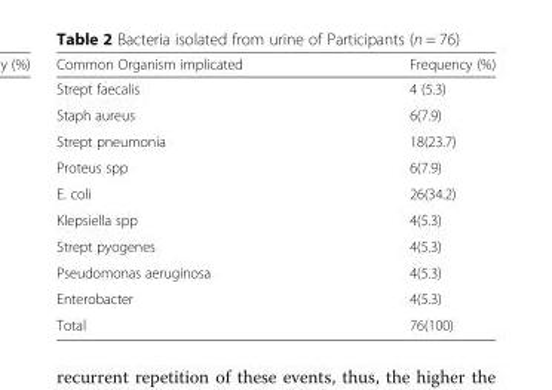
<table><thead><tr><td>Common Organism implicated</td><td>Frequency (%)</td></tr></thead><tbody><tr><td>Strept faecalis</td><td>4 (5.3)</td></tr><tr><td>Staph aureus</td><td>6(7.9)</td></tr><tr><td>Strept pneumonia</td><td>18(23.7)</td></tr><tr><td>Proteus spp</td><td>6(7.9)</td></tr><tr><td>E. coli</td><td>26(34.2)</td></tr><tr><td>Klepsiella spp</td><td>4(5.3)</td></tr><tr><td>Strept pyogenes</td><td>4(5.3)</td></tr><tr><td>Pseudomonas aeruginosa</td><td>4(5.3)</td></tr><tr><td>Enterobacter</td><td>4(5.3)</td></tr><tr><td>Total</td><td>76(100)</td></tr></tbody></table>